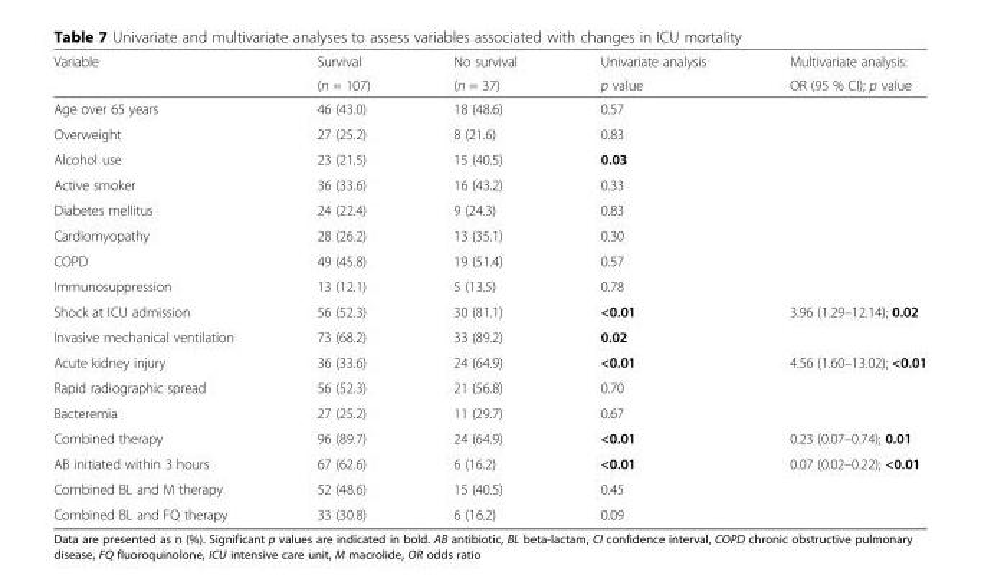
<table><thead><tr><td rowspan="2">Variable</td><td rowspan="2">Survival (n = 107)</td><td rowspan="2">No survival (n = 37)</td><td rowspan="2">Univariate analysis p value</td><td rowspan="2">Multivariate analysis: OR (95 % CI); p value</td></tr><tr></tr></thead><tbody><tr><td>Age over 65 years</td><td>46 (43.0)</td><td>18 (48.6)</td><td>0.57</td><td></td></tr><tr><td>Overweight</td><td>27 (25.2)</td><td>8 (21.6)</td><td>0.83</td><td></td></tr><tr><td>Alcohol use</td><td>23 (21.5)</td><td>15 (40.5)</td><td>0.03</td><td></td></tr><tr><td>Active smoker</td><td>36 (33.6)</td><td>16 (43.2)</td><td>0.33</td><td></td></tr><tr><td>Diabetes mellitus</td><td>24 (22.4)</td><td>9 (24.3)</td><td>0.83</td><td></td></tr><tr><td>Cardiomyopathy</td><td>28 (26.2)</td><td>13 (35.1)</td><td>0.30</td><td></td></tr><tr><td>COPD</td><td>49 (45.8)</td><td>19 (51.4)</td><td>0.57</td><td></td></tr><tr><td>Immunosuppression</td><td>13 (12.1)</td><td>5 (13.5)</td><td>0.78</td><td></td></tr><tr><td>Shock at ICU admission</td><td>56 (52.3)</td><td>30 (81.1)</td><td>&lt;0.01</td><td>3.96 (1.29–12.14); 0.02</td></tr><tr><td>Invasive mechanical ventilation</td><td>73 (68.2)</td><td>33 (89.2)</td><td>0.02</td><td></td></tr><tr><td>Acute kidney injury</td><td>36 (33.6)</td><td>24 (64.9)</td><td>&lt;0.01</td><td>4.56 (1.60–13.02); &lt;0.01</td></tr><tr><td>Rapid radiographic spread</td><td>56 (52.3)</td><td>21 (56.8)</td><td>0.70</td><td></td></tr><tr><td>Bacteremia</td><td>27 (25.2)</td><td>11 (29.7)</td><td>0.67</td><td></td></tr><tr><td>Combined therapy</td><td>96 (89.7)</td><td>24 (64.9)</td><td>&lt;0.01</td><td>0.23 (0.07–0.74); 0.01</td></tr><tr><td>AB initiated within 3 hours</td><td>67 (62.6)</td><td>6 (16.2)</td><td>&lt;0.01</td><td>0.07 (0.02–0.22); &lt;0.01</td></tr><tr><td>Combined BL and M therapy</td><td>52 (48.6)</td><td>15 (40.5)</td><td>0.45</td><td></td></tr><tr><td>Combined BL and FQ therapy</td><td>33 (30.8)</td><td>6 (16.2)</td><td>0.09</td><td></td></tr></tbody></table>